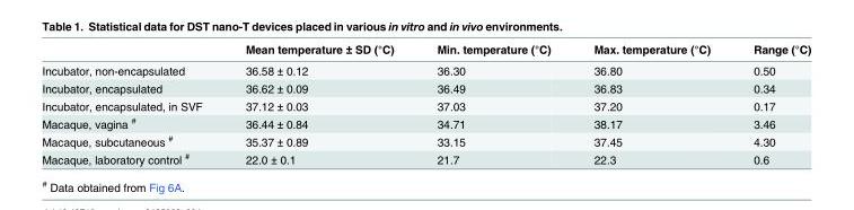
<table><thead><tr><td></td><td>Mean temperature ± SD (°C)</td><td>Min. temperature (°C)</td><td>Max. temperature (°C)</td><td>Range (°C)</td></tr></thead><tbody><tr><td>Incubator, non-encapsulated</td><td>36.58 ± 0.12</td><td>36.30</td><td>36.80</td><td>0.50</td></tr><tr><td>Incubator, encapsulated</td><td>36.62 ± 0.09</td><td>36.49</td><td>36.83</td><td>0.34</td></tr><tr><td>Incubator, encapsulated, in SVF</td><td>37.12 ± 0.03</td><td>37.03</td><td>37.20</td><td>0.17</td></tr><tr><td>Macaque, vagina <sup>#</sup></td><td>36.44 ± 0.84</td><td>34.71</td><td>38.17</td><td>3.46</td></tr><tr><td>Macaque, subcutaneous <sup>#</sup></td><td>35.37 ± 0.89</td><td>33.15</td><td>37.45</td><td>4.30</td></tr><tr><td>Macaque, laboratory control <sup>#</sup></td><td>22.0 ± 0.1</td><td>21.7</td><td>22.3</td><td>0.6</td></tr></tbody></table>